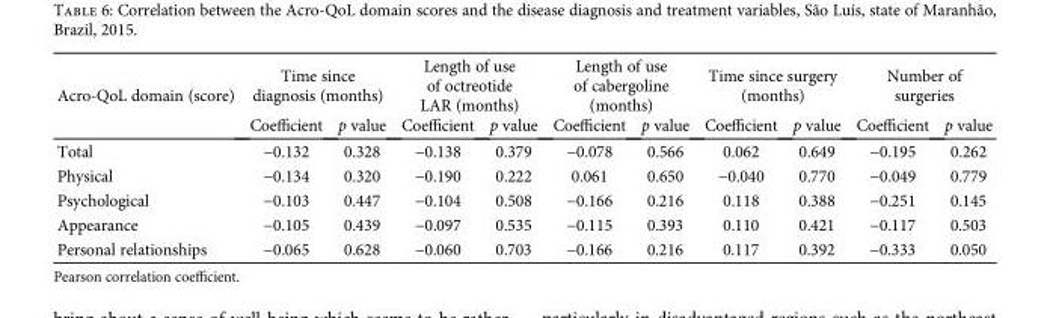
<table><thead><tr><td rowspan="2">Acro-QoL domain (score)</td><td colspan="2">Time since diagnosis (months)</td><td colspan="2">Length of use of octreotide LAR (months)</td><td colspan="2">Length of use of cabergoline (months)</td><td colspan="2">Time since surgery (months)</td><td colspan="2">Number of surgeries</td></tr><tr><td>Coefficient</td><td>p value</td><td>Coefficient</td><td>p value</td><td>Coefficient</td><td>p value</td><td>Coefficient</td><td>p value</td><td>Coefficient</td><td>p value</td></tr></thead><tbody><tr><td>Total</td><td>−0.132</td><td>0.328</td><td>−0.138</td><td>0.379</td><td>−0.078</td><td>0.566</td><td>0.062</td><td>0.649</td><td>−0.195</td><td>0.262</td></tr><tr><td>Physical</td><td>−0.134</td><td>0.320</td><td>−0.190</td><td>0.222</td><td>0.061</td><td>0.650</td><td>−0.040</td><td>0.770</td><td>−0.049</td><td>0.779</td></tr><tr><td>Psychological</td><td>−0.103</td><td>0.447</td><td>−0.104</td><td>0.508</td><td>−0.166</td><td>0.216</td><td>0.118</td><td>0.388</td><td>−0.251</td><td>0.145</td></tr><tr><td>Appearance</td><td>−0.105</td><td>0.439</td><td>−0.097</td><td>0.535</td><td>−0.115</td><td>0.393</td><td>0.110</td><td>0.421</td><td>−0.117</td><td>0.503</td></tr><tr><td>Personal relationships</td><td>−0.065</td><td>0.628</td><td>−0.060</td><td>0.703</td><td>−0.166</td><td>0.216</td><td>0.117</td><td>0.392</td><td>−0.333</td><td>0.050</td></tr></tbody></table>